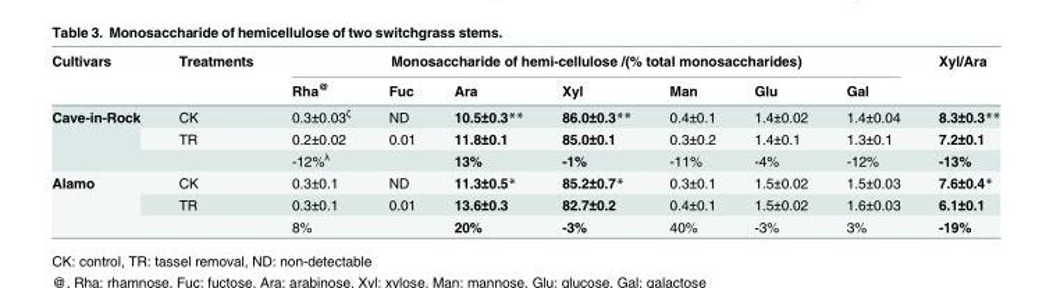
<table><thead><tr><td rowspan="2">Cultivars</td><td rowspan="2">Treatments</td><td colspan="7">Monosaccharide of hemi-cellulose /(% total monosaccharides)</td><td rowspan="2">Xyl/Ara</td></tr><tr><td>Rha<sup>@</sup></td><td>Fuc</td><td>Ara</td><td>Xyl</td><td>Man</td><td>Glu</td><td>Gal</td></tr></thead><tbody><tr><td rowspan="3">Cave-in-Rock</td><td>CK</td><td>0.3±0.03<sup>ζ</sup></td><td>ND</td><td>10.5±0.3**</td><td>86.0±0.3**</td><td>0.4±0.1</td><td>1.4±0.02</td><td>1.4±0.04</td><td>8.3±0.3**</td></tr><tr><td>TR</td><td>0.2±0.02</td><td>0.01</td><td>11.8±0.1</td><td>85.0±0.1</td><td>0.3±0.2</td><td>1.4±0.1</td><td>1.3±0.1</td><td>7.2±0.1</td></tr><tr><td></td><td>-12%<sup>λ</sup></td><td></td><td>13%</td><td>-1%</td><td>-11%</td><td>-4%</td><td>-12%</td><td>-13%</td></tr><tr><td rowspan="3">Alamo</td><td>CK</td><td>0.3±0.1</td><td>ND</td><td>11.3±0.5*</td><td>85.2±0.7*</td><td>0.3±0.1</td><td>1.5±0.02</td><td>1.5±0.03</td><td>7.6±0.4*</td></tr><tr><td>TR</td><td>0.3±0.1</td><td>0.01</td><td>13.6±0.3</td><td>82.7±0.2</td><td>0.4±0.1</td><td>1.5±0.02</td><td>1.6±0.03</td><td>6.1±0.1</td></tr><tr><td></td><td>8%</td><td></td><td>20%</td><td>-3%</td><td>40%</td><td>-3%</td><td>3%</td><td>-19%</td></tr></tbody></table>